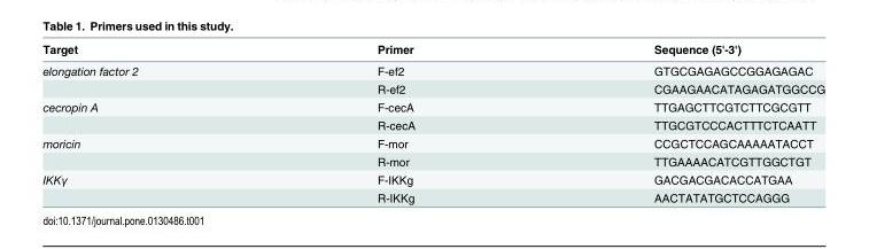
<table><thead><tr><td>Target</td><td>Primer</td><td>Sequence (5&#x27;-3&#x27;)</td></tr></thead><tbody><tr><td rowspan="2">elongation factor 2</td><td>F-ef2</td><td>GTGCGAGAGCCGGAGAGAC</td></tr><tr><td>R-ef2</td><td>CGAAGAACATAGAGATGGCCG</td></tr><tr><td rowspan="2">cecropin A</td><td>F-cecA</td><td>TTGAGCTTCGTCTTCGCGTT</td></tr><tr><td>R-cecA</td><td>TTGCGTCCCACTTTCTCAATT</td></tr><tr><td rowspan="2">moricin</td><td>F-mor</td><td>CCGCTCCAGCAAAAATACCT</td></tr><tr><td>R-mor</td><td>TTGAAAACATCGTTGGCTGT</td></tr><tr><td rowspan="2">IKKγ</td><td>F-IKKg</td><td>GACGACGACACCATGAA</td></tr><tr><td>R-IKKg</td><td>AACTATATGCTCCAGGG</td></tr></tbody></table>